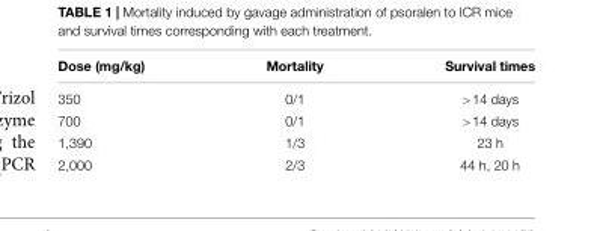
<table><thead><tr><td>Dose (mg/kg)</td><td>Mortality</td><td>Survival times</td></tr></thead><tbody><tr><td>350</td><td>0/1</td><td>&gt;14 days</td></tr><tr><td>700</td><td>0/1</td><td>&gt;14 days</td></tr><tr><td>1,390</td><td>1/3</td><td>23 h</td></tr><tr><td>2,000</td><td>2/3</td><td>44 h, 20 h</td></tr></tbody></table>